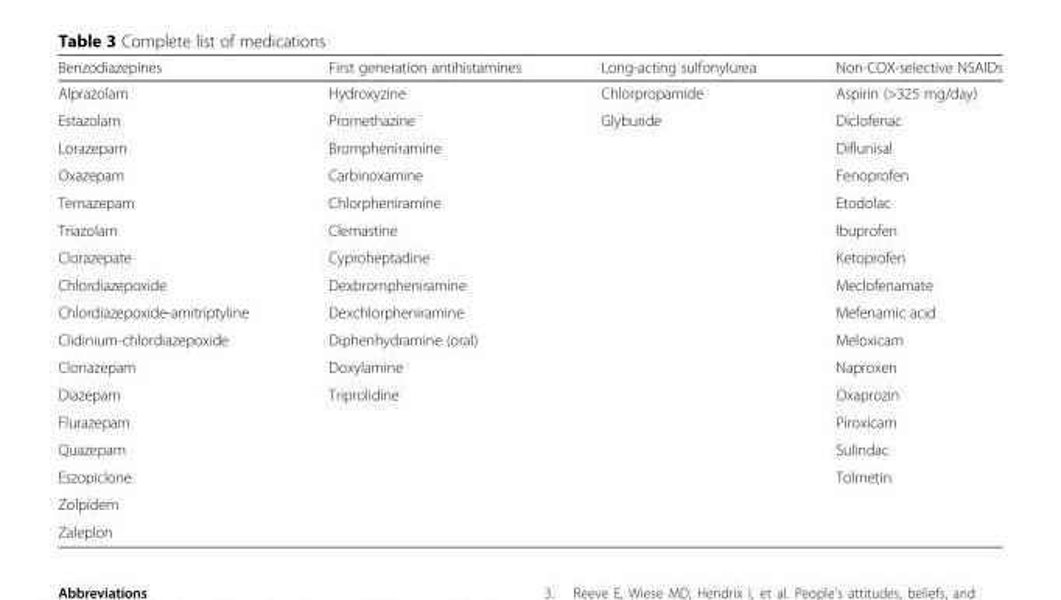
<table><thead><tr><td>Benzodiazepines</td><td>First generation antihistamines</td><td>Long-acting sulfonylurea</td><td>Non-COX-selective NSAIDs</td></tr></thead><tbody><tr><td>Alprazolam</td><td>Hydroxyzine</td><td>Chlorpropamide</td><td>Aspirin (&gt;325 mg/day)</td></tr><tr><td>Estazolam</td><td>Promethazine</td><td>Glyburide</td><td>Diclofenac</td></tr><tr><td>Lorazepam</td><td>Brompheniramine</td><td></td><td>Diflunisal</td></tr><tr><td>Oxazepam</td><td>Carbinoxamine</td><td></td><td>Fenoprofen</td></tr><tr><td>Temazepam</td><td>Chlorpheniramine</td><td></td><td>Etodolac</td></tr><tr><td>Triazolam</td><td>Clemastine</td><td></td><td>Ibuprofen</td></tr><tr><td>Clorazepate</td><td>Cyproheptadine</td><td></td><td>Ketoprofen</td></tr><tr><td>Chlordiazepoxide</td><td>Dexbrompheniramine</td><td></td><td>Meclofenamate</td></tr><tr><td>Chlordiazepoxide-amitriptyline</td><td>Dexchlorpheniramine</td><td></td><td>Mefenamic acid</td></tr><tr><td>Clidinium-chlordiazepoxide</td><td>Diphenhydramine (oral)</td><td></td><td>Meloxicam</td></tr><tr><td>Clonazepam</td><td>Doxylamine</td><td></td><td>Naproxen</td></tr><tr><td>Diazepam</td><td>Triprolidine</td><td></td><td>Oxaprozin</td></tr><tr><td>Flurazepam</td><td></td><td></td><td>Piroxicam</td></tr><tr><td>Quazepam</td><td></td><td></td><td>Sulindac</td></tr><tr><td>Eszopiclone</td><td></td><td></td><td>Tolmetin</td></tr><tr><td colspan="4">Zolpidem</td></tr><tr><td>Zaleplon</td><td></td><td></td><td></td></tr></tbody></table>